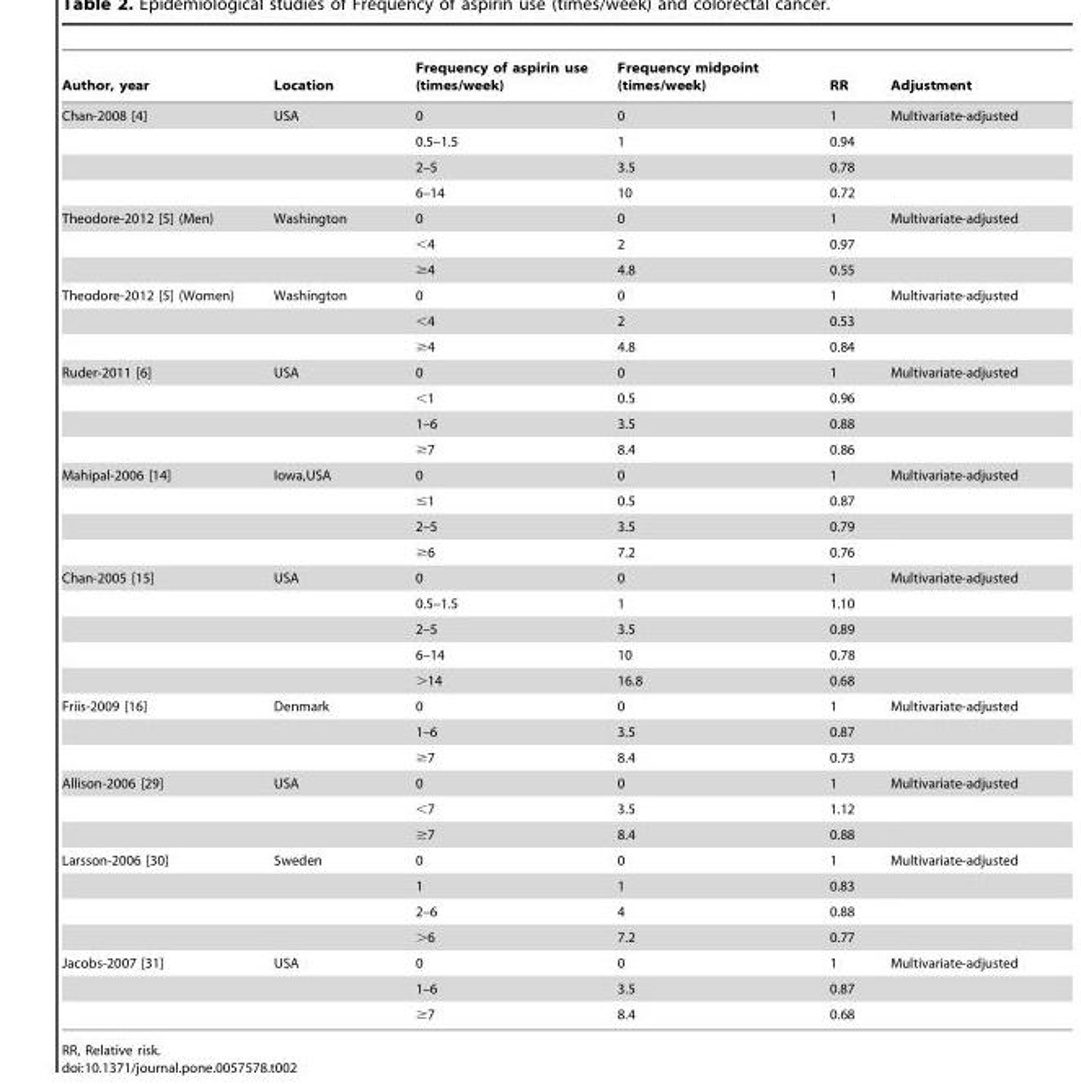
<table><thead><tr><td>Author, year</td><td>Location</td><td>Frequency of aspirin use (times/week)</td><td>Frequency midpoint (times/week)</td><td>RR</td><td>Adjustment</td></tr></thead><tbody><tr><td rowspan="4">Chan-2008 [4]</td><td>USA</td><td>0</td><td>0</td><td>1</td><td>Multivariate-adjusted</td></tr><tr><td></td><td>0.5–1.5</td><td>1</td><td>0.94</td><td></td></tr><tr><td></td><td>2–5</td><td>3.5</td><td>0.78</td><td></td></tr><tr><td></td><td>6–14</td><td>10</td><td>0.72</td><td></td></tr><tr><td rowspan="3">Theodore-2012 [5] (Men)</td><td>Washington</td><td>0</td><td>0</td><td>1</td><td>Multivariate-adjusted</td></tr><tr><td></td><td>&lt;4</td><td>2</td><td>0.97</td><td></td></tr><tr><td></td><td>≥4</td><td>4.8</td><td>0.55</td><td></td></tr><tr><td rowspan="3">Theodore-2012 [5] (Women)</td><td>Washington</td><td>0</td><td>0</td><td>1</td><td>Multivariate-adjusted</td></tr><tr><td></td><td>&lt;4</td><td>2</td><td>0.53</td><td></td></tr><tr><td></td><td>≥4</td><td>4.8</td><td>0.84</td><td></td></tr><tr><td rowspan="4">Ruder-2011 [6]</td><td>USA</td><td>0</td><td>0</td><td>1</td><td>Multivariate-adjusted</td></tr><tr><td></td><td>&lt;1</td><td>0.5</td><td>0.96</td><td></td></tr><tr><td></td><td>1–6</td><td>3.5</td><td>0.88</td><td></td></tr><tr><td></td><td>≥7</td><td>8.4</td><td>0.86</td><td></td></tr><tr><td rowspan="4">Mahipal-2006 [14]</td><td>Iowa,USA</td><td>0</td><td>0</td><td>1</td><td>Multivariate-adjusted</td></tr><tr><td></td><td>≤1</td><td>0.5</td><td>0.87</td><td></td></tr><tr><td></td><td>2–5</td><td>3.5</td><td>0.79</td><td></td></tr><tr><td></td><td>≥6</td><td>7.2</td><td>0.76</td><td></td></tr><tr><td rowspan="5">Chan-2005 [15]</td><td>USA</td><td>0</td><td>0</td><td>1</td><td>Multivariate-adjusted</td></tr><tr><td></td><td>0.5–1.5</td><td>1</td><td>1.10</td><td></td></tr><tr><td></td><td>2–5</td><td>3.5</td><td>0.89</td><td></td></tr><tr><td></td><td>6–14</td><td>10</td><td>0.78</td><td></td></tr><tr><td></td><td>&gt;14</td><td>16.8</td><td>0.68</td><td></td></tr><tr><td rowspan="3">Friis-2009 [16]</td><td>Denmark</td><td>0</td><td>0</td><td>1</td><td>Multivariate-adjusted</td></tr><tr><td></td><td>1–6</td><td>3.5</td><td>0.87</td><td></td></tr><tr><td></td><td>≥7</td><td>8.4</td><td>0.73</td><td></td></tr><tr><td rowspan="3">Allison-2006 [29]</td><td>USA</td><td>0</td><td>0</td><td>1</td><td>Multivariate-adjusted</td></tr><tr><td></td><td>&lt;7</td><td>3.5</td><td>1.12</td><td></td></tr><tr><td></td><td>≥7</td><td>8.4</td><td>0.88</td><td></td></tr><tr><td rowspan="4">Larsson-2006 [30]</td><td>Sweden</td><td>0</td><td>0</td><td>1</td><td>Multivariate-adjusted</td></tr><tr><td></td><td>1</td><td>1</td><td>0.83</td><td></td></tr><tr><td></td><td>2–6</td><td>4</td><td>0.88</td><td></td></tr><tr><td></td><td>&gt;6</td><td>7.2</td><td>0.77</td><td></td></tr><tr><td rowspan="3">Jacobs-2007 [31]</td><td>USA</td><td>0</td><td>0</td><td>1</td><td>Multivariate-adjusted</td></tr><tr><td></td><td>1–6</td><td>3.5</td><td>0.87</td><td></td></tr><tr><td></td><td>≥7</td><td>8.4</td><td>0.68</td><td></td></tr></tbody></table>